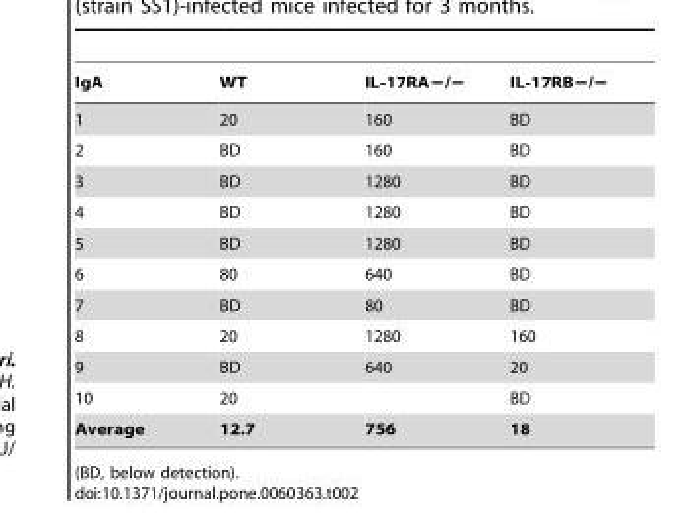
<table><thead><tr><td>IgA</td><td>WT</td><td>IL-17RA−/−</td><td>IL-17RB−/−</td></tr></thead><tbody><tr><td>1</td><td>20</td><td>160</td><td>BD</td></tr><tr><td>2</td><td>BD</td><td>160</td><td>BD</td></tr><tr><td>3</td><td>BD</td><td>1280</td><td>BD</td></tr><tr><td>4</td><td>BD</td><td>1280</td><td>BD</td></tr><tr><td>5</td><td>BD</td><td>1280</td><td>BD</td></tr><tr><td>6</td><td>80</td><td>640</td><td>BD</td></tr><tr><td>7</td><td>BD</td><td>80</td><td>BD</td></tr><tr><td>8</td><td>20</td><td>1280</td><td>160</td></tr><tr><td>9</td><td>BD</td><td>640</td><td>20</td></tr><tr><td>10</td><td>20</td><td></td><td>BD</td></tr><tr><td>Average</td><td>12.7</td><td>756</td><td>18</td></tr></tbody></table>